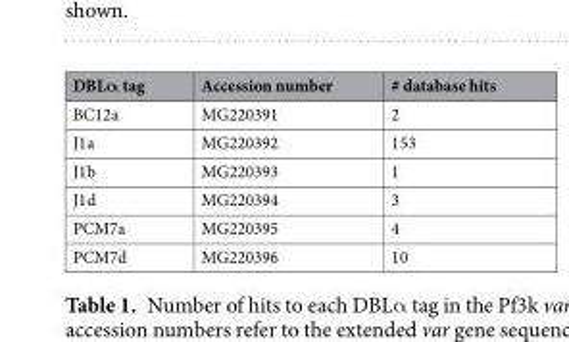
<table><thead><tr><td>DBLα tag</td><td>Accession number</td><td># database hits</td></tr></thead><tbody><tr><td>BC12a</td><td>MG220391</td><td>2</td></tr><tr><td>J1a</td><td>MG220392</td><td>153</td></tr><tr><td>J1b</td><td>MG220393</td><td>1</td></tr><tr><td>J1d</td><td>MG220394</td><td>3</td></tr><tr><td>PCM7a</td><td>MG220395</td><td>4</td></tr><tr><td>PCM7d</td><td>MG220396</td><td>10</td></tr></tbody></table>